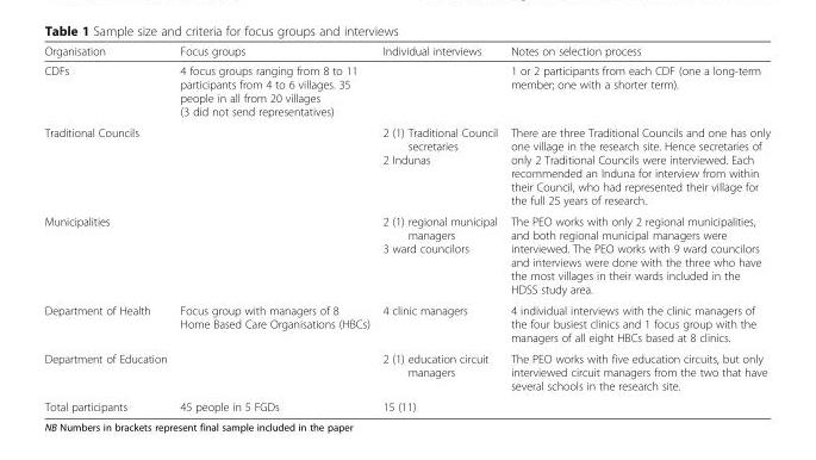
<table><thead><tr><td>Organisation</td><td>Focus groups</td><td>Individual interviews</td><td>Notes on selection process</td></tr></thead><tbody><tr><td>CDFs</td><td>4 focus groups ranging from 8 to 11 participants from 4 to 6 villages. 35 people in all from 20 villages (3 did not send representatives)</td><td></td><td>1 or 2 participants from each CDF (one a long-term member; one with a shorter term).</td></tr><tr><td>Traditional Councils</td><td></td><td>2 (1) Traditional Council secretaries 2 Indunas</td><td>There are three Traditional Councils and one has only one village in the research site. Hence secretaries of only 2 Traditional Councils were interviewed. Each recommended an Induna for interview from within their Council, who had represented their village for the full 25 years of research.</td></tr><tr><td>Municipalities</td><td></td><td>2 (1) regional municipal managers 3 ward councilors</td><td>The PEO works with only 2 regional municipalities, and both regional municipal managers were interviewed. The PEO works with 9 ward councilors and interviews were done with the three who have the most villages in their wards included in the HDSS study area.</td></tr><tr><td>Department of Health</td><td>Focus group with managers of 8 Home Based Care Organisations (HBCs)</td><td>4 clinic managers</td><td>4 individual interviews with the clinic managers of the four busiest clinics and 1 focus group with the managers of all eight HBCs based at 8 clinics.</td></tr><tr><td>Department of Education</td><td></td><td>2 (1) education circuit managers</td><td>The PEO works with five education circuits, but only interviewed circuit managers from the two that have several schools in the research site.</td></tr><tr><td>Total participants</td><td>45 people in 5 FGDs</td><td>15 (11)</td><td></td></tr></tbody></table>